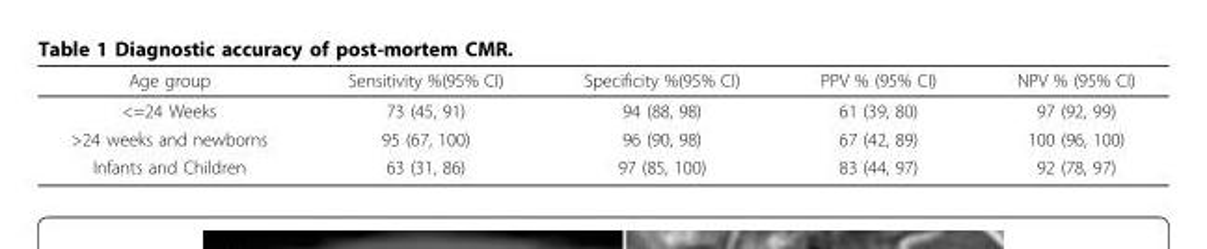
<table><thead><tr><td>Age group</td><td>Sensitivity %(95% CI)</td><td>Specificity %(95% CI)</td><td>PPV % (95% CI)</td><td>NPV % (95% CI)</td></tr></thead><tbody><tr><td>&lt;=24 Weeks</td><td>73 (45, 91)</td><td>94 (88, 98)</td><td>61 (39, 80)</td><td>97 (92, 99)</td></tr><tr><td>&gt;24 weeks and newborns</td><td>95 (67, 100)</td><td>96 (90, 98)</td><td>67 (42, 89)</td><td>100 (96, 100)</td></tr><tr><td>Infants and Children</td><td>63 (31, 86)</td><td>97 (85, 100)</td><td>83 (44, 97)</td><td>92 (78, 97)</td></tr></tbody></table>